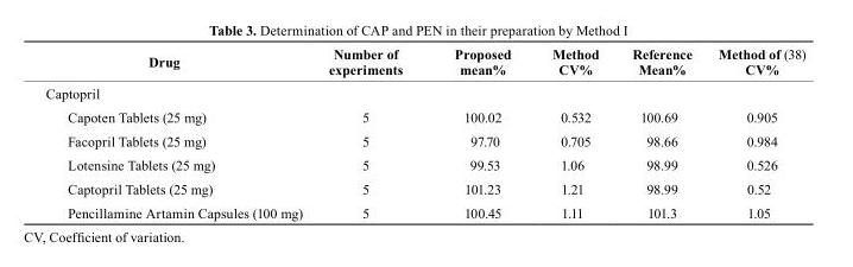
<table><thead><tr><td>Drug</td><td>Number of experiments</td><td>Proposed mean%</td><td>Method cv%</td><td>reference Mean%</td><td>Method of (38) cv%</td></tr></thead><tbody><tr><td colspan="6">Captopril</td></tr><tr><td>Capoten Tablets (25 mg)</td><td>5</td><td>100.02</td><td>0.532</td><td>100.69</td><td>0.905</td></tr><tr><td>Facopril Tablets (25 mg)</td><td>5</td><td>97.70</td><td>0.705</td><td>98.66</td><td>0.984</td></tr><tr><td>Lotensine Tablets (25 mg)</td><td>5</td><td>99.53</td><td>1.06</td><td>98.99</td><td>0.526</td></tr><tr><td>Captopril Tablets (25 mg)</td><td>5</td><td>101.23</td><td>1.21</td><td>98.99</td><td>0.52</td></tr><tr><td>Pencillamine Artamin Capsules (100 mg)</td><td>5</td><td>100.45</td><td>1.11</td><td>101.3</td><td>1.05</td></tr></tbody></table>